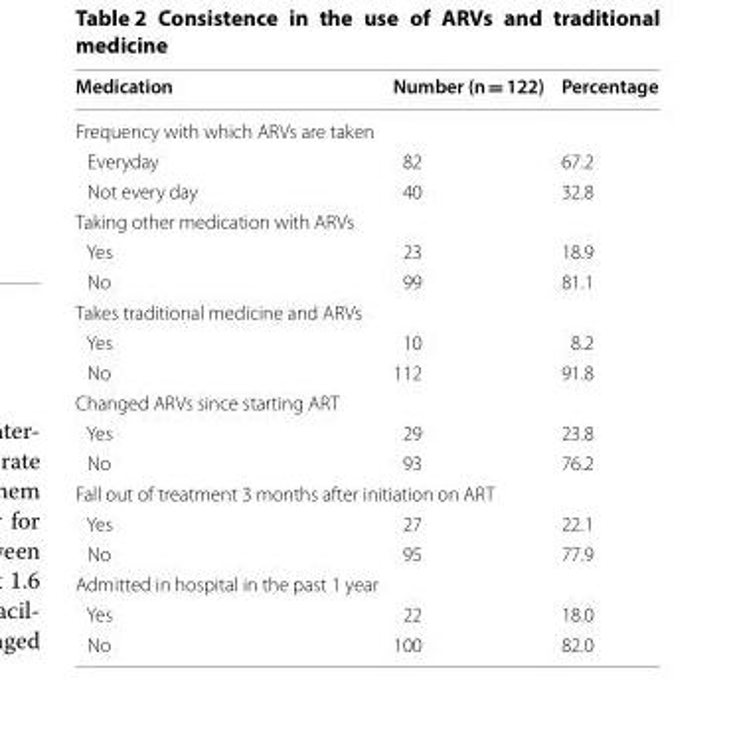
<table><thead><tr><td>Medication</td><td>Number (n = 122)</td><td>Percentage</td></tr></thead><tbody><tr><td colspan="3">Frequency with which ARVs are taken</td></tr><tr><td>Everyday</td><td>82</td><td>67.2</td></tr><tr><td>Not every day</td><td>40</td><td>32.8</td></tr><tr><td colspan="3">Taking other medication with ARVs</td></tr><tr><td>Yes</td><td>23</td><td>18.9</td></tr><tr><td>No</td><td>99</td><td>81.1</td></tr><tr><td colspan="3">Takes traditional medicine and ARVs</td></tr><tr><td>Yes</td><td>10</td><td>8.2</td></tr><tr><td>No</td><td>112</td><td>91.8</td></tr><tr><td colspan="3">Changed ARVs since starting ART</td></tr><tr><td>Yes</td><td>29</td><td>23.8</td></tr><tr><td>No</td><td>93</td><td>76.2</td></tr><tr><td colspan="3">Fall out of treatment 3 months after initiation on ART</td></tr><tr><td>Yes</td><td>27</td><td>22.1</td></tr><tr><td>No</td><td>95</td><td>77.9</td></tr><tr><td colspan="3">Admitted in hospital in the past 1 year</td></tr><tr><td>Yes</td><td>22</td><td>18.0</td></tr><tr><td>No</td><td>100</td><td>82.0</td></tr></tbody></table>